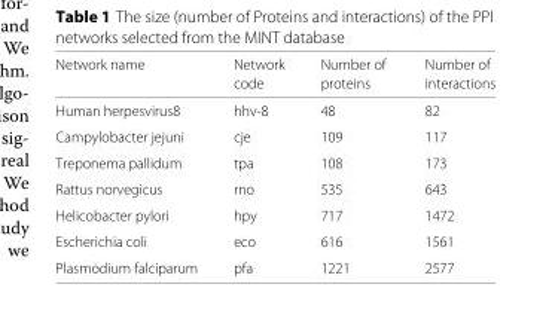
<table><thead><tr><td rowspan="2">Network name</td><td rowspan="2">Network code</td><td rowspan="2">Number of proteins</td><td rowspan="2">Number of interactions</td></tr><tr></tr></thead><tbody><tr><td>Human herpesvirus8</td><td>hhv-8</td><td>48</td><td>82</td></tr><tr><td>Campylobacter jejuni</td><td>cje</td><td>109</td><td>117</td></tr><tr><td>Treponema pallidum</td><td>tpa</td><td>108</td><td>173</td></tr><tr><td>Rattus norvegicus</td><td>rno</td><td>535</td><td>643</td></tr><tr><td>Helicobacter pylori</td><td>hpy</td><td>717</td><td>1472</td></tr><tr><td>Escherichia coli</td><td>eco</td><td>616</td><td>1561</td></tr><tr><td>Plasmodium falciparum</td><td>pfa</td><td>1221</td><td>2577</td></tr></tbody></table>